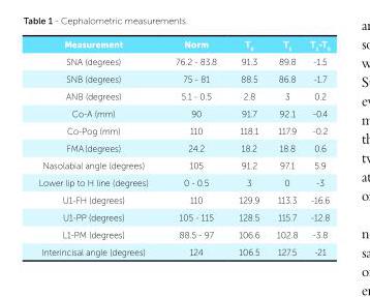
<table><thead><tr><td>Measurement</td><td>Norm</td><td>T<sub>0</sub></td><td>T<sub>1</sub></td><td>T<sub>1</sub>-T<sub>0</sub></td></tr></thead><tbody><tr><td>SNA (degrees)</td><td>76.2 - 83.8</td><td>91.3</td><td>89.8</td><td>-1.5</td></tr><tr><td>SNB (degrees)</td><td>75 - 81</td><td>88.5</td><td>86.8</td><td>-1.7</td></tr><tr><td>ANB (degrees)</td><td>5.1 - 0.5</td><td>2.8</td><td>3</td><td>0.2</td></tr><tr><td>Co-A (mm)</td><td>90</td><td>91.7</td><td>92.1</td><td>-0.4</td></tr><tr><td>Co-Pog (mm)</td><td>110</td><td>118.1</td><td>117.9</td><td>-0.2</td></tr><tr><td>FMA (degrees)</td><td>24.2</td><td>18.2</td><td>18.8</td><td>0.6</td></tr><tr><td>Nasolabial angle (degrees)</td><td>105</td><td>91.2</td><td>97.1</td><td>5.9</td></tr><tr><td>Lower lip to H line (degrees)</td><td>0 - 0.5</td><td>3</td><td>0</td><td>-3</td></tr><tr><td>U1-FH (degrees)</td><td>110</td><td>129.9</td><td>113.3</td><td>-16.6</td></tr><tr><td>U1-PP (degrees)</td><td>105 - 115</td><td>128.5</td><td>115.7</td><td>-12.8</td></tr><tr><td>L1-PM (degrees)</td><td>88.5 - 97</td><td>106.6</td><td>102.8</td><td>-3.8</td></tr><tr><td>Interincisal angle (degrees)</td><td>124</td><td>106.5</td><td>127.5</td><td>-21</td></tr></tbody></table>